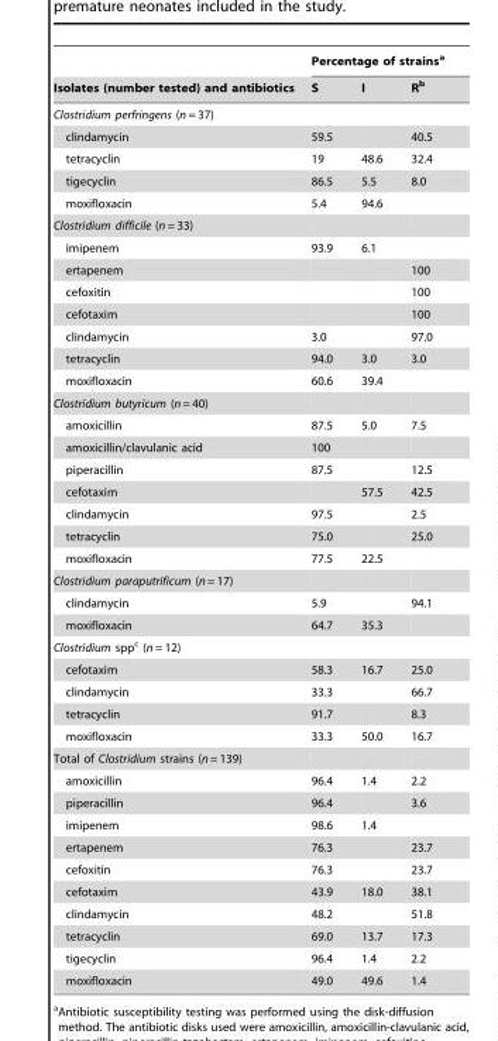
<table><thead><tr><td rowspan="2">Isolates (number tested) and antibiotics</td><td colspan="3">Percentage of strains<sup>a</sup></td></tr><tr><td>S</td><td>I</td><td>R<sup>b</sup></td></tr></thead><tbody><tr><td colspan="4">Clostridium perfringens (n = 37)</td></tr><tr><td>clindamycin</td><td>59.5</td><td></td><td>40.5</td></tr><tr><td>tetracyclin</td><td>19</td><td>48.6</td><td>32.4</td></tr><tr><td>tigecyclin</td><td>86.5</td><td>5.5</td><td>8.0</td></tr><tr><td>moxifloxacin</td><td>5.4</td><td>94.6</td><td></td></tr><tr><td colspan="4">Clostridium difficile (n = 33)</td></tr><tr><td>imipenem</td><td>93.9</td><td>6.1</td><td></td></tr><tr><td>ertapenem</td><td></td><td></td><td>100</td></tr><tr><td>cefoxitin</td><td></td><td></td><td>100</td></tr><tr><td>cefotaxim</td><td></td><td></td><td>100</td></tr><tr><td>clindamycin</td><td>3.0</td><td></td><td>97.0</td></tr><tr><td>tetracyclin</td><td>94.0</td><td>3.0</td><td>3.0</td></tr><tr><td>moxifloxacin</td><td>60.6</td><td>39.4</td><td></td></tr><tr><td colspan="4">Clostridium butyricum (n = 40)</td></tr><tr><td>amoxicillin</td><td>87.5</td><td>5.0</td><td>7.5</td></tr><tr><td>amoxicillin/clavulanic acid</td><td>100</td><td></td><td></td></tr><tr><td>piperacillin</td><td>87.5</td><td></td><td>12.5</td></tr><tr><td>cefotaxim</td><td></td><td>57.5</td><td>42.5</td></tr><tr><td>clindamycin</td><td>97.5</td><td></td><td>2.5</td></tr><tr><td>tetracyclin</td><td>75.0</td><td></td><td>25.0</td></tr><tr><td>moxifloxacin</td><td>77.5</td><td>22.5</td><td></td></tr><tr><td colspan="4">Clostridium paraputrificum (n = 17)</td></tr><tr><td>clindamycin</td><td>5.9</td><td></td><td>94.1</td></tr><tr><td>moxifloxacin</td><td>64.7</td><td>35.3</td><td></td></tr><tr><td colspan="4">Clostridium spp<sup>c</sup> (n = 12)</td></tr><tr><td>cefotaxim</td><td>58.3</td><td>16.7</td><td>25.0</td></tr><tr><td>clindamycin</td><td>33.3</td><td></td><td>66.7</td></tr><tr><td>tetracyclin</td><td>91.7</td><td></td><td>8.3</td></tr><tr><td>moxifloxacin</td><td>33.3</td><td>50.0</td><td>16.7</td></tr><tr><td colspan="4">Total of Clostridium strains (n = 139)</td></tr><tr><td>amoxicillin</td><td>96.4</td><td>1.4</td><td>2.2</td></tr><tr><td>piperacillin</td><td>96.4</td><td></td><td>3.6</td></tr><tr><td>imipenem</td><td>98.6</td><td>1.4</td><td></td></tr><tr><td>ertapenem</td><td>76.3</td><td></td><td>23.7</td></tr><tr><td>cefoxitin</td><td>76.3</td><td></td><td>23.7</td></tr><tr><td>cefotaxim</td><td>43.9</td><td>18.0</td><td>38.1</td></tr><tr><td>clindamycin</td><td>48.2</td><td></td><td>51.8</td></tr><tr><td>tetracyclin</td><td>69.0</td><td>13.7</td><td>17.3</td></tr><tr><td>tigecyclin</td><td>96.4</td><td>1.4</td><td>2.2</td></tr><tr><td>moxifloxacin</td><td>49.0</td><td>49.6</td><td>1.4</td></tr></tbody></table>